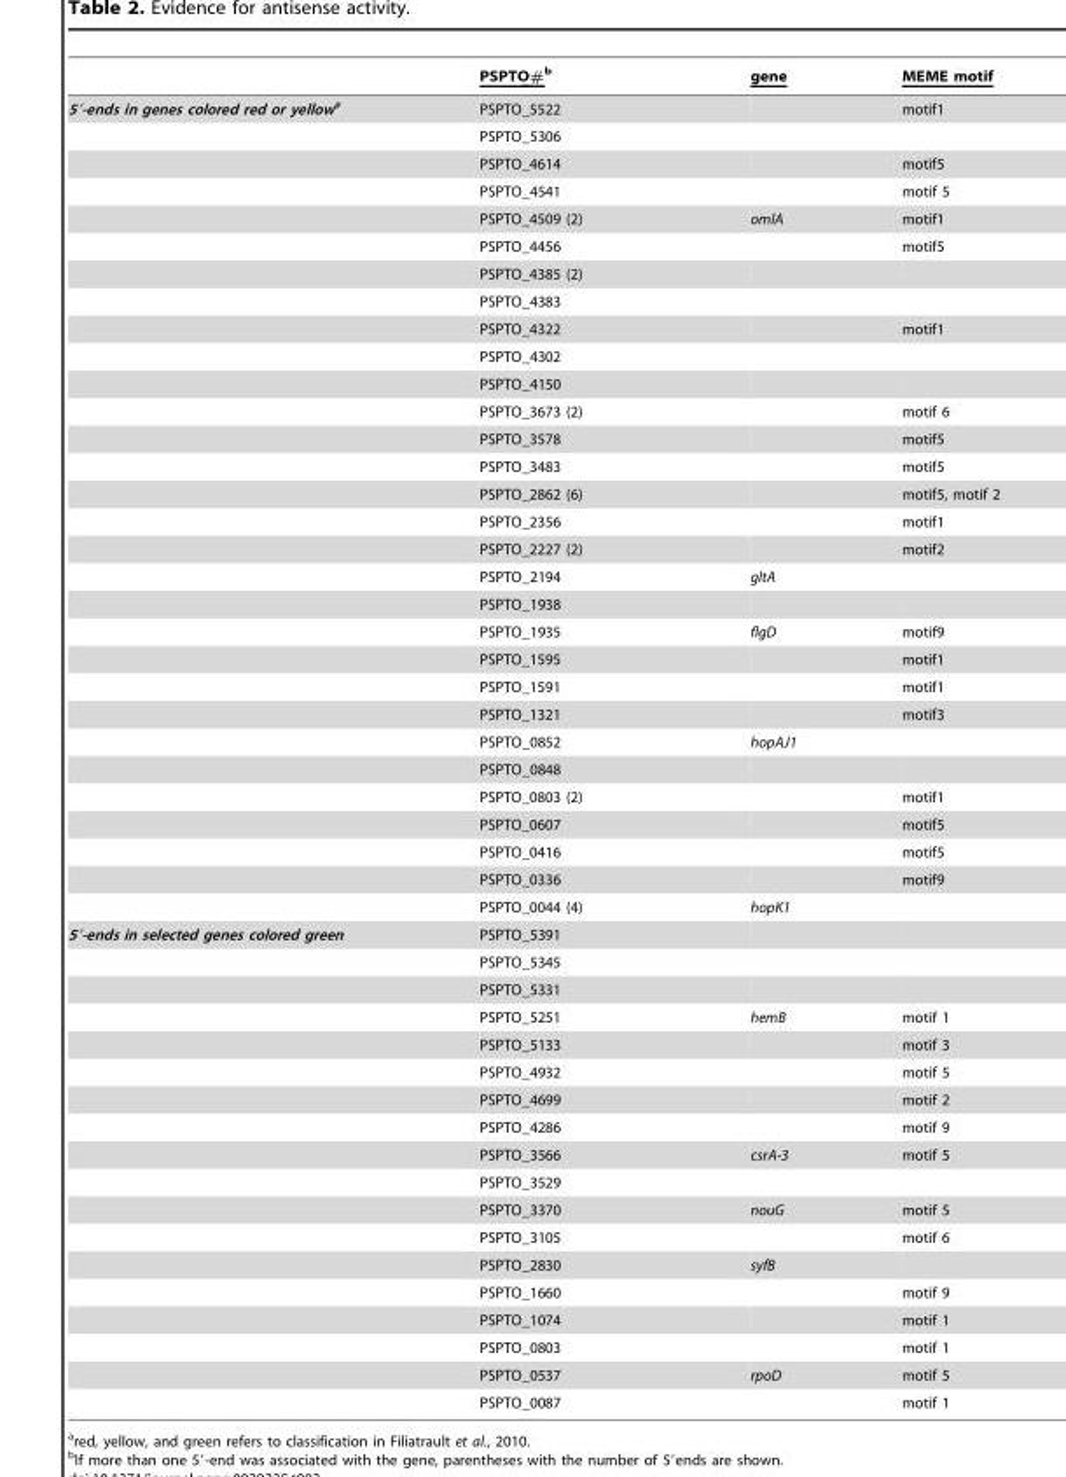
<table><thead><tr><td></td><td>PSPTO#b</td><td>gene</td><td>MEME motif</td></tr></thead><tbody><tr><td rowspan="30">5′-ends in genes colored red or yellowa</td><td>PSPTO_5522</td><td></td><td>motif1</td></tr><tr><td>PSPTO_5306</td><td></td><td></td></tr><tr><td>PSPTO_4614</td><td></td><td>motif5</td></tr><tr><td>PSPTO_4541</td><td></td><td>motif 5</td></tr><tr><td>PSPTO_4509 (2)</td><td>omlA</td><td>motif1</td></tr><tr><td>PSPTO_4456</td><td></td><td>motif5</td></tr><tr><td>PSPTO_4385 (2)</td><td></td><td></td></tr><tr><td>PSPTO_4383</td><td></td><td></td></tr><tr><td>PSPTO_4322</td><td></td><td>motif1</td></tr><tr><td>PSPTO_4302</td><td></td><td></td></tr><tr><td>PSPTO_4150</td><td></td><td></td></tr><tr><td>PSPTO_3673 (2)</td><td></td><td>motif 6</td></tr><tr><td>PSPTO_3578</td><td></td><td>motif5</td></tr><tr><td>PSPTO_3483</td><td></td><td>motif5</td></tr><tr><td>PSPTO_2862 (6)</td><td></td><td>motif5, motif 2</td></tr><tr><td>PSPTO_2356</td><td></td><td>motif1</td></tr><tr><td>PSPTO_2227 (2)</td><td></td><td>motif2</td></tr><tr><td>PSPTO_2194</td><td>gltA</td><td></td></tr><tr><td>PSPTO_1938</td><td></td><td></td></tr><tr><td>PSPTO_1935</td><td>flgD</td><td>motif9</td></tr><tr><td>PSPTO_1595</td><td></td><td>motif1</td></tr><tr><td>PSPTO_1591</td><td></td><td>motif1</td></tr><tr><td>PSPTO_1321</td><td></td><td>motif3</td></tr><tr><td>PSPTO_0852</td><td>hopAJ1</td><td></td></tr><tr><td>PSPTO_0848</td><td></td><td></td></tr><tr><td>PSPTO_0803 (2)</td><td></td><td>motif1</td></tr><tr><td>PSPTO_0607</td><td></td><td>motif5</td></tr><tr><td>PSPTO_0416</td><td></td><td>motif5</td></tr><tr><td>PSPTO_0336</td><td></td><td>motif9</td></tr><tr><td>PSPTO_0044 (4)</td><td>hopK1</td><td></td></tr><tr><td rowspan="18">5′-ends in selected genes colored green</td><td>PSPTO_5391</td><td></td><td></td></tr><tr><td>PSPTO_5345</td><td></td><td></td></tr><tr><td>PSPTO_5331</td><td></td><td></td></tr><tr><td>PSPTO_5251</td><td>hemB</td><td>motif 1</td></tr><tr><td>PSPTO_5133</td><td></td><td>motif 3</td></tr><tr><td>PSPTO_4932</td><td></td><td>motif 5</td></tr><tr><td>PSPTO_4699</td><td></td><td>motif 2</td></tr><tr><td>PSPTO_4286</td><td></td><td>motif 9</td></tr><tr><td>PSPTO_3566</td><td>csrA-3</td><td>motif 5</td></tr><tr><td>PSPTO_3529</td><td></td><td></td></tr><tr><td>PSPTO_3370</td><td>nouG</td><td>motif 5</td></tr><tr><td>PSPTO_3105</td><td></td><td>motif 6</td></tr><tr><td>PSPTO_2830</td><td>syfB</td><td></td></tr><tr><td>PSPTO_1660</td><td></td><td>motif 9</td></tr><tr><td>PSPTO_1074</td><td></td><td>motif 1</td></tr><tr><td>PSPTO_0803</td><td></td><td>motif 1</td></tr><tr><td>PSPTO_0537</td><td>rpoD</td><td>motif 5</td></tr><tr><td>PSPTO_0087</td><td></td><td>motif 1</td></tr></tbody></table>